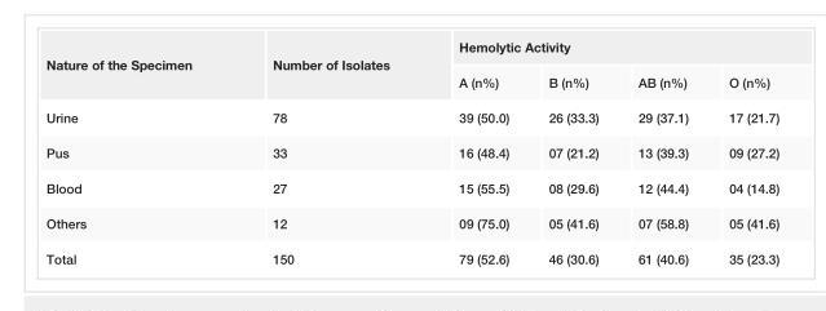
<table><tbody><tr><td rowspan="2">Nature of the Specimen</td><td rowspan="2">Number of Isolates</td><td colspan="4">Hemolytic Activity</td></tr><tr><td>A (n%)</td><td>B (n%)</td><td>AB (n%)</td><td>O (n%)</td></tr><tr><td>Urine</td><td>78</td><td>39 (50.0)</td><td>26 (33.3)</td><td>29 (37.1)</td><td>17 (21.7)</td></tr><tr><td>Pus</td><td>33</td><td>16 (48.4)</td><td>07 (21.2)</td><td>13 (39.3)</td><td>09 (27.2)</td></tr><tr><td>Blood</td><td>27</td><td>15 (55.5)</td><td>08 (29.6)</td><td>12 (44.4)</td><td>04 (14.8)</td></tr><tr><td>Others</td><td>12</td><td>09 (75.0)</td><td>05 (41.6)</td><td>07 (58.8)</td><td>05 (41.6)</td></tr><tr><td>Total</td><td>150</td><td>79 (52.6)</td><td>46 (30.6)</td><td>61 (40.6)</td><td>35 (23.3)</td></tr></tbody></table>